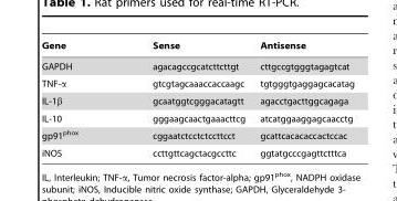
<table><thead><tr><td>Gene</td><td>Sense</td><td>Antisense</td></tr></thead><tbody><tr><td>GAPDH</td><td>agacagccgcatcttcttgt</td><td>cttgccgtgggtagagtcat</td></tr><tr><td>TNF-α</td><td>gtcgtagcaaaccaccaagc</td><td>tgtgggtgaggagcacatag</td></tr><tr><td>IL-1β</td><td>gcaatggtcgggacatagtt</td><td>agacctgacttggcagaga</td></tr><tr><td>IL-10</td><td>gggaagcaactgaaacttcg</td><td>atcatggaaggagcaacctg</td></tr><tr><td>gp91<sup>phox</sup></td><td>cggaatctcctctccttcct</td><td>gcattcacacaccactccac</td></tr><tr><td>iNOS</td><td>ccttgttcagctacgccttc</td><td>ggtatgcccgagttctttca</td></tr></tbody></table>